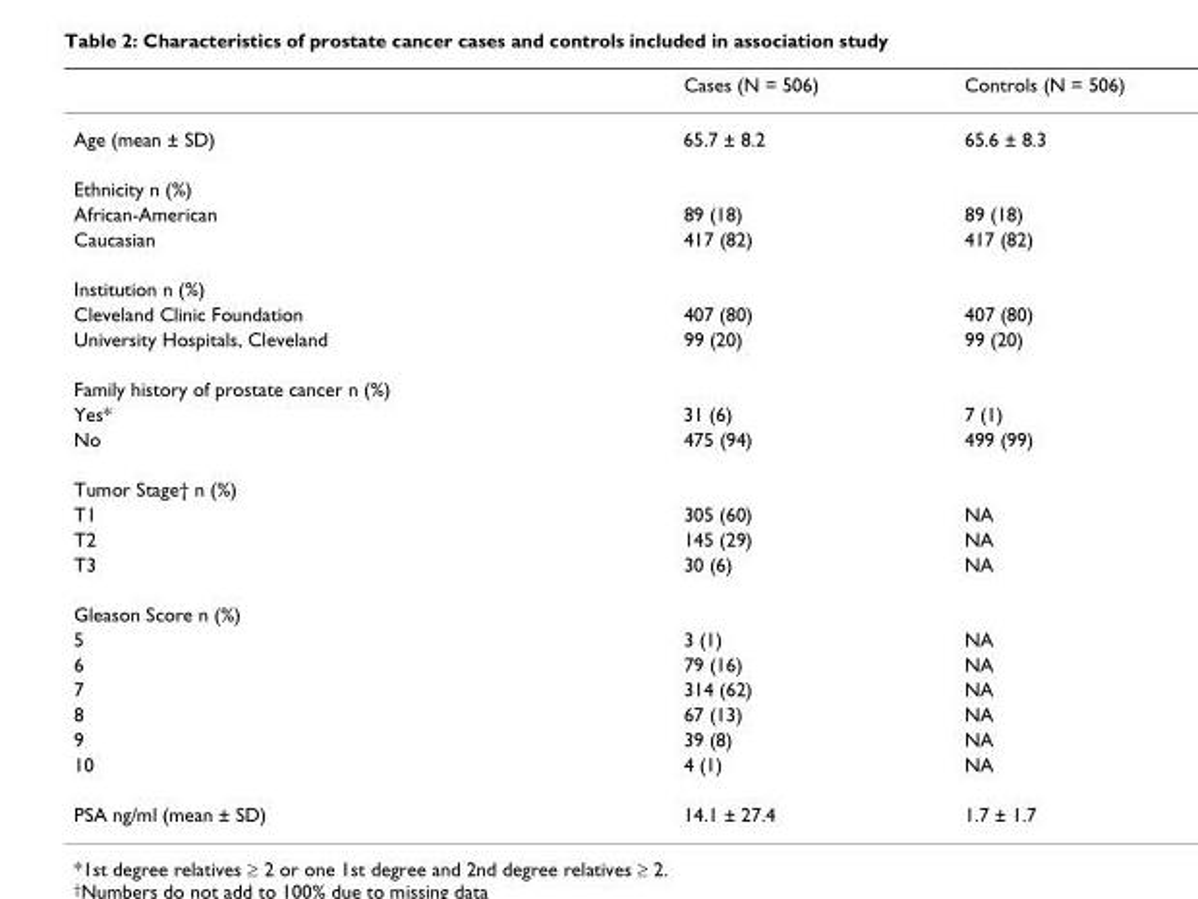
<table><thead><tr><td></td><td>Cases (N = 506)</td><td>Controls (N = 506)</td></tr></thead><tbody><tr><td>Age (mean ± SD)</td><td>65.7 ± 8.2</td><td>65.6 ± 8.3</td></tr><tr><td colspan="3">Ethnicity n (%)</td></tr><tr><td>African-American</td><td>89 (18)</td><td>89 (18)</td></tr><tr><td>Caucasian</td><td>417 (82)</td><td>417 (82)</td></tr><tr><td colspan="3">Institution n (%)</td></tr><tr><td>Cleveland Clinic Foundation</td><td>407 (80)</td><td>407 (80)</td></tr><tr><td>University Hospitals, Cleveland</td><td>99 (20)</td><td>99 (20)</td></tr><tr><td colspan="3">Family history of prostate cancer n (%)</td></tr><tr><td>Yes*</td><td>31 (6)</td><td>7 (1)</td></tr><tr><td>No</td><td>475 (94)</td><td>499 (99)</td></tr><tr><td colspan="3">Tumor Stage† n (%)</td></tr><tr><td>T1</td><td>305 (60)</td><td>NA</td></tr><tr><td>T2</td><td>145 (29)</td><td>NA</td></tr><tr><td>T3</td><td>30 (6)</td><td>NA</td></tr><tr><td colspan="3">Gleason Score n (%)</td></tr><tr><td>5</td><td>3 (1)</td><td>NA</td></tr><tr><td>6</td><td>79 (16)</td><td>NA</td></tr><tr><td>7</td><td>314 (62)</td><td>NA</td></tr><tr><td>8</td><td>67 (13)</td><td>NA</td></tr><tr><td>9</td><td>39 (8)</td><td>NA</td></tr><tr><td>10</td><td>4 (1)</td><td>NA</td></tr><tr><td>PSA ng/ml (mean ± SD)</td><td>14.1 ± 27.4</td><td>1.7 ± 1.7</td></tr></tbody></table>